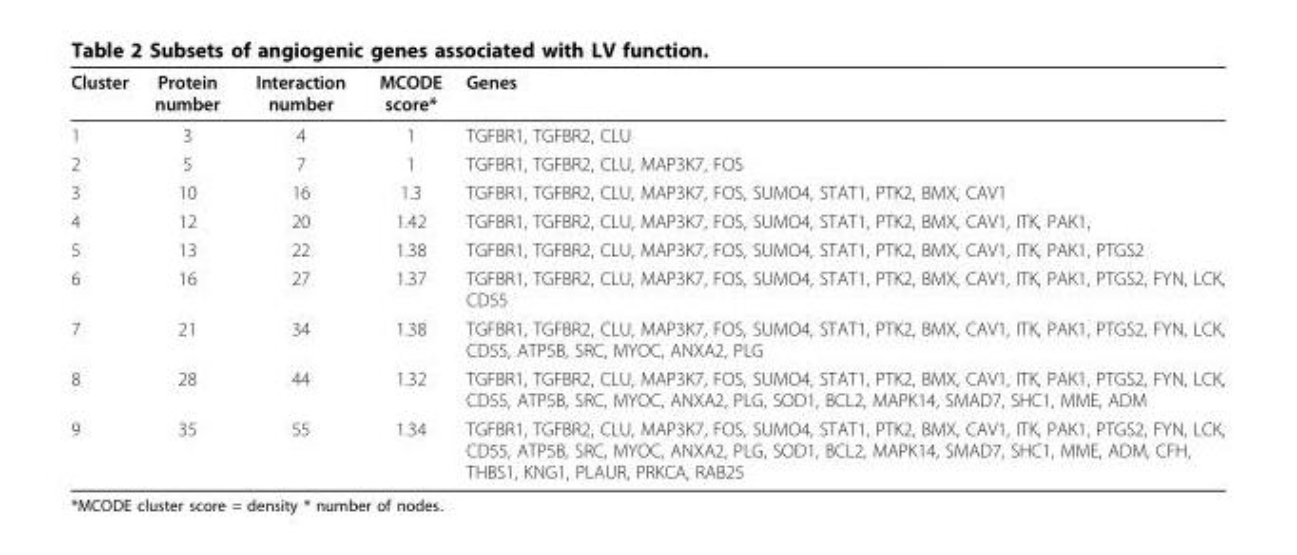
<table><thead><tr><td>Cluster</td><td>Protein number</td><td>Interaction number</td><td>MCODE score*</td><td>Genes</td></tr></thead><tbody><tr><td>1</td><td>3</td><td>4</td><td>1</td><td>TGFBR1, TGFBR2, CLU</td></tr><tr><td>2</td><td>5</td><td>7</td><td>1</td><td>TGFBR1, TGFBR2, CLU, MAP3K7, FOS</td></tr><tr><td>3</td><td>10</td><td>16</td><td>1.3</td><td>TGFBR1, TGFBR2, CLU, MAP3K7, FOS, SUMO4, STAT1, PTK2, BMX, CAV1</td></tr><tr><td>4</td><td>12</td><td>20</td><td>1.42</td><td>TGFBR1, TGFBR2, CLU, MAP3K7, FOS, SUMO4, STAT1, PTK2, BMX, CAV1, ITK, PAK1,</td></tr><tr><td>5</td><td>13</td><td>22</td><td>1.38</td><td>TGFBR1, TGFBR2, CLU, MAP3K7, FOS, SUMO4, STAT1, PTK2, BMX, CAV1, ITK, PAK1, PTGS2</td></tr><tr><td>6</td><td>16</td><td>27</td><td>1.37</td><td>TGFBR1, TGFBR2, CLU, MAP3K7, FOS, SUMO4, STAT1, PTK2, BMX, CAV1, ITK, PAK1, PTGS2, FYN, LCK, CD55</td></tr><tr><td>7</td><td>21</td><td>34</td><td>1.38</td><td>TGFBR1, TGFBR2, CLU, MAP3K7, FOS, SUMO4, STAT1, PTK2, BMX, CAV1, ITK, PAK1, PTGS2, FYN, LCK, CD55, ATP5B, SRC, MYOC, ANXA2, PLG</td></tr><tr><td>8</td><td>28</td><td>44</td><td>1.32</td><td>TGFBR1, TGFBR2, CLU, MAP3K7, FOS, SUMO4, STAT1, PTK2, BMX, CAV1, ITK, PAK1, PTGS2, FYN, LCK, CD55, ATP5B, SRC, MYOC, ANXA2, PLG, SOD1, BCL2, MAPK14, SMAD7, SHC1, MME, ADM</td></tr><tr><td>9</td><td>35</td><td>55</td><td>1.34</td><td>TGFBR1, TGFBR2, CLU, MAP3K7, FOS, SUMO4, STAT1, PTK2, BMX, CAV1, ITK, PAK1, PTGS2, FYN, LCK, CD55, ATP5B, SRC, MYOC, ANXA2, PLG, SOD1, BCL2, MAPK14, SMAD7, SHC1, MME, ADM, CFH, THBS1, KNG1, PLAUR, PRKCA, RAB25</td></tr></tbody></table>